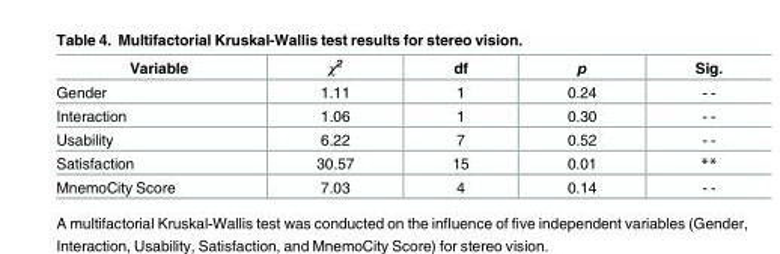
<table><thead><tr><td>Variable</td><td>χ<sup>2</sup></td><td>df</td><td>p</td><td>Sig.</td></tr></thead><tbody><tr><td>Gender</td><td>1.11</td><td>1</td><td>0.24</td><td>- -</td></tr><tr><td>Interaction</td><td>1.06</td><td>1</td><td>0.30</td><td>- -</td></tr><tr><td>Usability</td><td>6.22</td><td>7</td><td>0.52</td><td>- -</td></tr><tr><td>Satisfaction</td><td>30.57</td><td>15</td><td>0.01</td><td>**</td></tr><tr><td>MnemoCity Score</td><td>7.03</td><td>4</td><td>0.14</td><td>- -</td></tr></tbody></table>